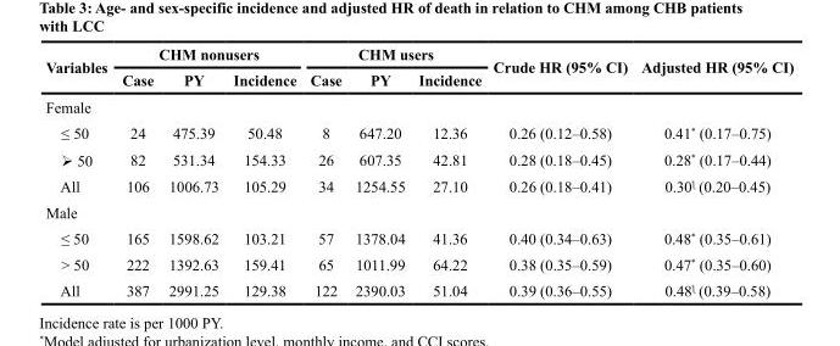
<table><thead><tr><td rowspan="2">Variables</td><td colspan="3">CHM nonusers</td><td colspan="3">CHM users</td><td rowspan="2">Crude HR (95% CI)</td><td rowspan="2">Adjusted HR (95% CI)</td></tr><tr><td>Case</td><td>PY</td><td>Incidence</td><td>Case</td><td>PY</td><td>Incidence</td></tr></thead><tbody><tr><td colspan="9">Female</td></tr><tr><td>≤ 50</td><td>24</td><td>475.39</td><td>50.48</td><td>8</td><td>647.20</td><td>12.36</td><td>0.26 (0.12–0.58)</td><td>0.41* (0.17–0.75)</td></tr><tr><td>➢ 50</td><td>82</td><td>531.34</td><td>154.33</td><td>26</td><td>607.35</td><td>42.81</td><td>0.28 (0.18–0.45)</td><td>0.28* (0.17–0.44)</td></tr><tr><td>All</td><td>106</td><td>1006.73</td><td>105.29</td><td>34</td><td>1254.55</td><td>27.10</td><td>0.26 (0.18–0.41)</td><td>0.30<sup>ƪ</sup> (0.20–0.45)</td></tr><tr><td colspan="9">Male</td></tr><tr><td>≤ 50</td><td>165</td><td>1598.62</td><td>103.21</td><td>57</td><td>1378.04</td><td>41.36</td><td>0.40 (0.34–0.63)</td><td>0.48* (0.35–0.61)</td></tr><tr><td>&gt; 50</td><td>222</td><td>1392.63</td><td>159.41</td><td>65</td><td>1011.99</td><td>64.22</td><td>0.38 (0.35–0.59)</td><td>0.47* (0.35–0.60)</td></tr><tr><td>All</td><td>387</td><td>2991.25</td><td>129.38</td><td>122</td><td>2390.03</td><td>51.04</td><td>0.39 (0.36–0.55)</td><td>0.48<sup>ƪ</sup> (0.39–0.58)</td></tr></tbody></table>